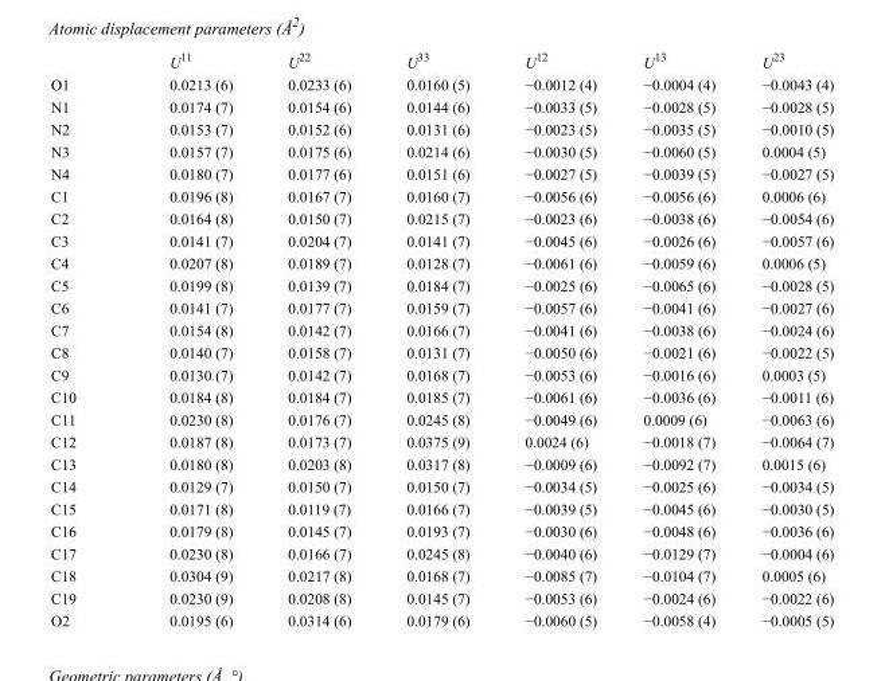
<table><thead><tr><td></td><td>U<sup>11</sup></td><td>U<sup>22</sup></td><td>U<sup>33</sup></td><td>U<sup>12</sup></td><td>U<sup>13</sup></td><td>U<sup>23</sup></td></tr></thead><tbody><tr><td>O1</td><td>0.0213 (6)</td><td>0.0233 (6)</td><td>0.0160 (5)</td><td>−0.0012 (4)</td><td>−0.0004 (4)</td><td>−0.0043 (4)</td></tr><tr><td>N1</td><td>0.0174 (7)</td><td>0.0154 (6)</td><td>0.0144 (6)</td><td>−0.0033 (5)</td><td>−0.0028 (5)</td><td>−0.0028 (5)</td></tr><tr><td>N2</td><td>0.0153 (7)</td><td>0.0152 (6)</td><td>0.0131 (6)</td><td>−0.0023 (5)</td><td>−0.0035 (5)</td><td>−0.0010 (5)</td></tr><tr><td>N3</td><td>0.0157 (7)</td><td>0.0175 (6)</td><td>0.0214 (6)</td><td>−0.0030 (5)</td><td>−0.0060 (5)</td><td>0.0004 (5)</td></tr><tr><td>N4</td><td>0.0180 (7)</td><td>0.0177 (6)</td><td>0.0151 (6)</td><td>−0.0027 (5)</td><td>−0.0039 (5)</td><td>−0.0027 (5)</td></tr><tr><td>C1</td><td>0.0196 (8)</td><td>0.0167 (7)</td><td>0.0160 (7)</td><td>−0.0056 (6)</td><td>−0.0056 (6)</td><td>0.0006 (6)</td></tr><tr><td>C2</td><td>0.0164 (8)</td><td>0.0150 (7)</td><td>0.0215 (7)</td><td>−0.0023 (6)</td><td>−0.0038 (6)</td><td>−0.0054 (6)</td></tr><tr><td>C3</td><td>0.0141 (7)</td><td>0.0204 (7)</td><td>0.0141 (7)</td><td>−0.0045 (6)</td><td>−0.0026 (6)</td><td>−0.0057 (6)</td></tr><tr><td>C4</td><td>0.0207 (8)</td><td>0.0189 (7)</td><td>0.0128 (7)</td><td>−0.0061 (6)</td><td>−0.0059 (6)</td><td>0.0006 (5)</td></tr><tr><td>C5</td><td>0.0199 (8)</td><td>0.0139 (7)</td><td>0.0184 (7)</td><td>−0.0025 (6)</td><td>−0.0065 (6)</td><td>−0.0028 (5)</td></tr><tr><td>C6</td><td>0.0141 (7)</td><td>0.0177 (7)</td><td>0.0159 (7)</td><td>−0.0057 (6)</td><td>−0.0041 (6)</td><td>−0.0027 (6)</td></tr><tr><td>C7</td><td>0.0154 (8)</td><td>0.0142 (7)</td><td>0.0166 (7)</td><td>−0.0041 (6)</td><td>−0.0038 (6)</td><td>−0.0024 (6)</td></tr><tr><td>C8</td><td>0.0140 (7)</td><td>0.0158 (7)</td><td>0.0131 (7)</td><td>−0.0050 (6)</td><td>−0.0021 (6)</td><td>−0.0022 (5)</td></tr><tr><td>C9</td><td>0.0130 (7)</td><td>0.0142 (7)</td><td>0.0168 (7)</td><td>−0.0053 (6)</td><td>−0.0016 (6)</td><td>0.0003 (5)</td></tr><tr><td>C10</td><td>0.0184 (8)</td><td>0.0184 (7)</td><td>0.0185 (7)</td><td>−0.0061 (6)</td><td>−0.0036 (6)</td><td>−0.0011 (6)</td></tr><tr><td>C11</td><td>0.0230 (8)</td><td>0.0176 (7)</td><td>0.0245 (8)</td><td>−0.0049 (6)</td><td>0.0009 (6)</td><td>−0.0063 (6)</td></tr><tr><td>C12</td><td>0.0187 (8)</td><td>0.0173 (7)</td><td>0.0375 (9)</td><td>0.0024 (6)</td><td>−0.0018 (7)</td><td>−0.0064 (7)</td></tr><tr><td>C13</td><td>0.0180 (8)</td><td>0.0203 (8)</td><td>0.0317 (8)</td><td>−0.0009 (6)</td><td>−0.0092 (7)</td><td>0.0015 (6)</td></tr><tr><td>C14</td><td>0.0129 (7)</td><td>0.0150 (7)</td><td>0.0150 (7)</td><td>−0.0034 (5)</td><td>−0.0025 (6)</td><td>−0.0034 (5)</td></tr><tr><td>C15</td><td>0.0171 (8)</td><td>0.0119 (7)</td><td>0.0166 (7)</td><td>−0.0039 (5)</td><td>−0.0045 (6)</td><td>−0.0030 (5)</td></tr><tr><td>C16</td><td>0.0179 (8)</td><td>0.0145 (7)</td><td>0.0193 (7)</td><td>−0.0030 (6)</td><td>−0.0048 (6)</td><td>−0.0036 (6)</td></tr><tr><td>C17</td><td>0.0230 (8)</td><td>0.0166 (7)</td><td>0.0245 (8)</td><td>−0.0040 (6)</td><td>−0.0129 (7)</td><td>−0.0004 (6)</td></tr><tr><td>C18</td><td>0.0304 (9)</td><td>0.0217 (8)</td><td>0.0168 (7)</td><td>−0.0085 (7)</td><td>−0.0104 (7)</td><td>0.0005 (6)</td></tr><tr><td>C19</td><td>0.0230 (9)</td><td>0.0208 (8)</td><td>0.0145 (7)</td><td>−0.0053 (6)</td><td>−0.0024 (6)</td><td>−0.0022 (6)</td></tr><tr><td>O2</td><td>0.0195 (6)</td><td>0.0314 (6)</td><td>0.0179 (6)</td><td>−0.0060 (5)</td><td>−0.0058 (4)</td><td>−0.0005 (5)</td></tr></tbody></table>